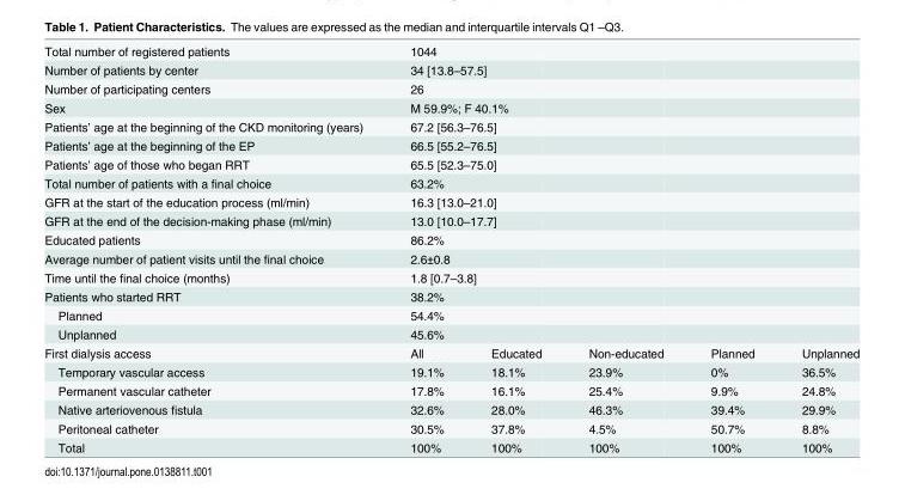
<table><tbody><tr><td>Total number of registered patients</td><td colspan="2">1044</td><td></td><td></td><td></td></tr><tr><td>Number of patients by center</td><td colspan="2">34 [13.8–57.5]</td><td></td><td></td><td></td></tr><tr><td>Number of participating centers</td><td colspan="2">26</td><td></td><td></td><td></td></tr><tr><td>Sex</td><td colspan="2">M 59.9%; F 40.1%</td><td></td><td></td><td></td></tr><tr><td>Patients’ age at the beginning of the CKD monitoring (years)</td><td colspan="2">67.2 [56.3–76.5]</td><td></td><td></td><td></td></tr><tr><td>Patients’ age at the beginning of the EP</td><td colspan="2">66.5 [55.2–76.5]</td><td></td><td></td><td></td></tr><tr><td>Patients’ age of those who began RRT</td><td colspan="2">65.5 [52.3–75.0]</td><td></td><td></td><td></td></tr><tr><td>Total number of patients with a final choice</td><td colspan="2">63.2%</td><td></td><td></td><td></td></tr><tr><td>GFR at the start of the education process (ml/min)</td><td colspan="2">16.3 [13.0–21.0]</td><td></td><td></td><td></td></tr><tr><td>GFR at the end of the decision-making phase (ml/min)</td><td colspan="2">13.0 [10.0–17.7]</td><td></td><td></td><td></td></tr><tr><td>Educated patients</td><td colspan="2">86.2%</td><td></td><td></td><td></td></tr><tr><td>Average number of patient visits until the final choice</td><td colspan="2">2.6±0.8</td><td></td><td></td><td></td></tr><tr><td>Time until the final choice (months)</td><td colspan="2">1.8 [0.7–3.8]</td><td></td><td></td><td></td></tr><tr><td>Patients who started RRT</td><td colspan="2">38.2%</td><td></td><td></td><td></td></tr><tr><td>Planned</td><td colspan="2">54.4%</td><td></td><td></td><td></td></tr><tr><td>Unplanned</td><td colspan="2">45.6%</td><td></td><td></td><td></td></tr><tr><td>First dialysis access</td><td>All</td><td>Educated</td><td>Non-educated</td><td>Planned</td><td>Unplanned</td></tr><tr><td>Temporary vascular access</td><td>19.1%</td><td>18.1%</td><td>23.9%</td><td>0%</td><td>36.5%</td></tr><tr><td>Permanent vascular catheter</td><td>17.8%</td><td>16.1%</td><td>25.4%</td><td>9.9%</td><td>24.8%</td></tr><tr><td>Native arteriovenous fistula</td><td>32.6%</td><td>28.0%</td><td>46.3%</td><td>39.4%</td><td>29.9%</td></tr><tr><td>Peritoneal catheter</td><td>30.5%</td><td>37.8%</td><td>4.5%</td><td>50.7%</td><td>8.8%</td></tr><tr><td>Total</td><td>100%</td><td>100%</td><td>100%</td><td>100%</td><td>100%</td></tr></tbody></table>